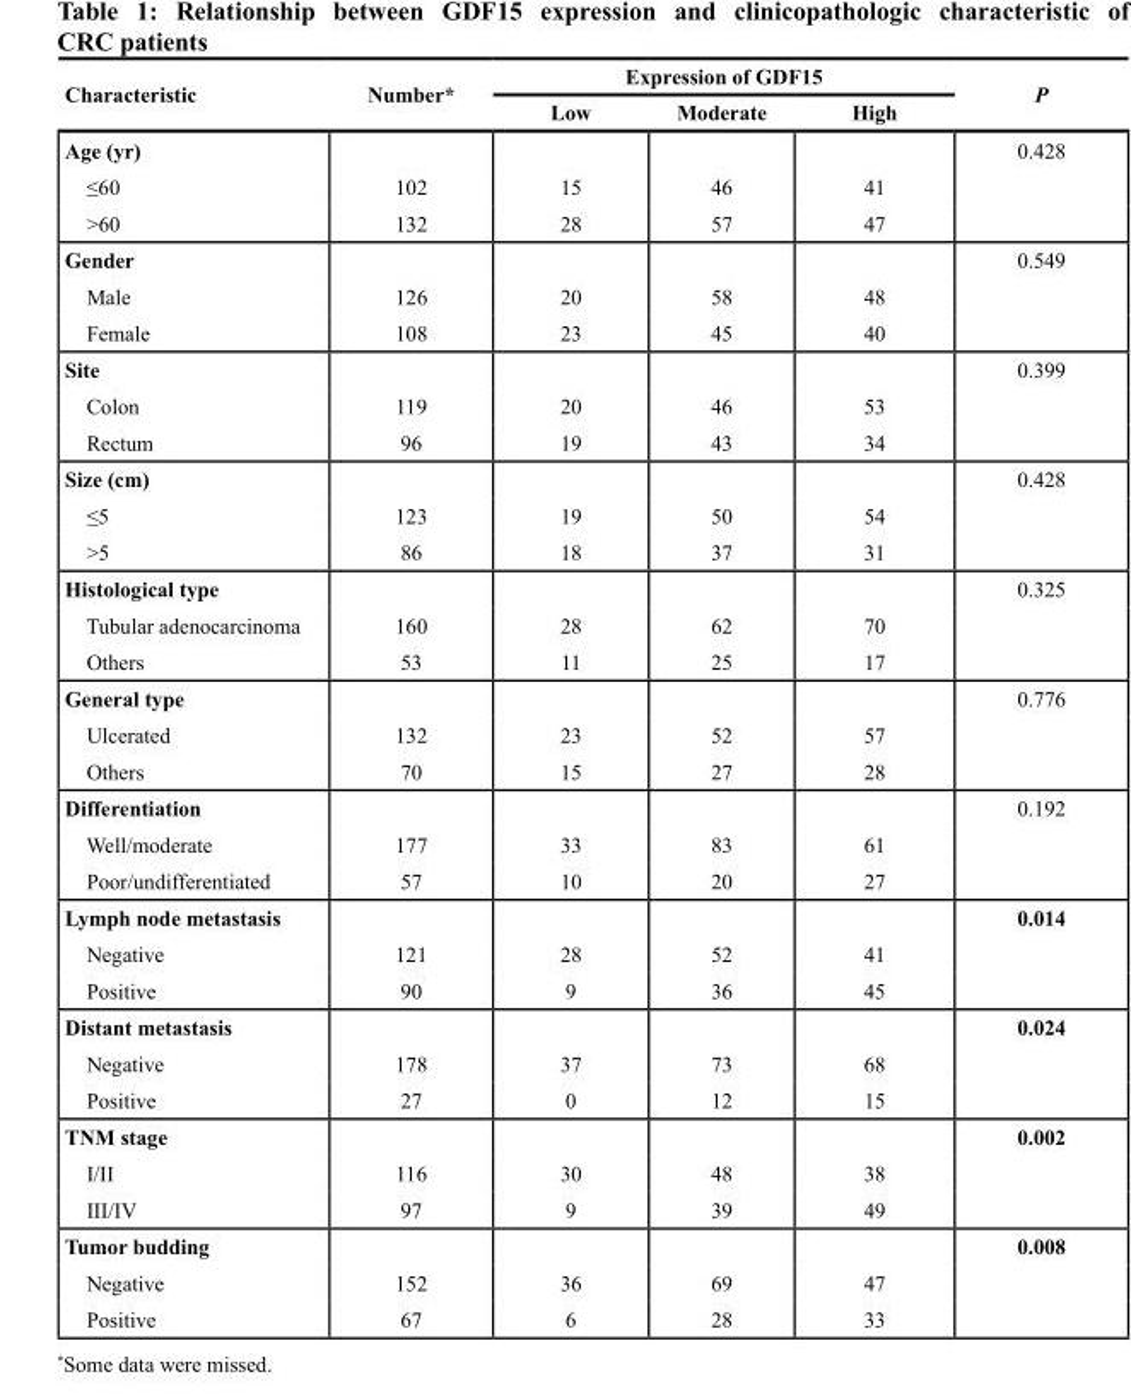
<table><thead><tr><td rowspan="2">Characteristic</td><td rowspan="2">Number*</td><td colspan="3">Expression of GDF15</td><td rowspan="2">P</td></tr><tr><td>Low</td><td>Moderate</td><td>High</td></tr></thead><tbody><tr><td>Age (yr)</td><td></td><td></td><td></td><td></td><td>0.428</td></tr><tr><td>≤60</td><td>102</td><td>15</td><td>46</td><td>41</td><td></td></tr><tr><td>&gt;60</td><td>132</td><td>28</td><td>57</td><td>47</td><td></td></tr><tr><td>Gender</td><td></td><td></td><td></td><td></td><td>0.549</td></tr><tr><td>Male</td><td>126</td><td>20</td><td>58</td><td>48</td><td></td></tr><tr><td>Female</td><td>108</td><td>23</td><td>45</td><td>40</td><td></td></tr><tr><td>Site</td><td></td><td></td><td></td><td></td><td>0.399</td></tr><tr><td>Colon</td><td>119</td><td>20</td><td>46</td><td>53</td><td></td></tr><tr><td>Rectum</td><td>96</td><td>19</td><td>43</td><td>34</td><td></td></tr><tr><td>Size (cm)</td><td></td><td></td><td></td><td></td><td>0.428</td></tr><tr><td>≤5</td><td>123</td><td>19</td><td>50</td><td>54</td><td></td></tr><tr><td>&gt;5</td><td>86</td><td>18</td><td>37</td><td>31</td><td></td></tr><tr><td>Histological type</td><td></td><td></td><td></td><td></td><td>0.325</td></tr><tr><td>Tubular adenocarcinoma</td><td>160</td><td>28</td><td>62</td><td>70</td><td></td></tr><tr><td>Others</td><td>53</td><td>11</td><td>25</td><td>17</td><td></td></tr><tr><td>General type</td><td></td><td></td><td></td><td></td><td>0.776</td></tr><tr><td>Ulcerated</td><td>132</td><td>23</td><td>52</td><td>57</td><td></td></tr><tr><td>Others</td><td>70</td><td>15</td><td>27</td><td>28</td><td></td></tr><tr><td>Differentiation</td><td></td><td></td><td></td><td></td><td>0.192</td></tr><tr><td>Well/moderate</td><td>177</td><td>33</td><td>83</td><td>61</td><td></td></tr><tr><td>Poor/undifferentiated</td><td>57</td><td>10</td><td>20</td><td>27</td><td></td></tr><tr><td>Lymph node metastasis</td><td></td><td></td><td></td><td></td><td>0.014</td></tr><tr><td>Negative</td><td>121</td><td>28</td><td>52</td><td>41</td><td></td></tr><tr><td>Positive</td><td>90</td><td>9</td><td>36</td><td>45</td><td></td></tr><tr><td>Distant metastasis</td><td></td><td></td><td></td><td></td><td>0.024</td></tr><tr><td>Negative</td><td>178</td><td>37</td><td>73</td><td>68</td><td></td></tr><tr><td>Positive</td><td>27</td><td>0</td><td>12</td><td>15</td><td></td></tr><tr><td>TNM stage</td><td></td><td></td><td></td><td></td><td>0.002</td></tr><tr><td>I/II</td><td>116</td><td>30</td><td>48</td><td>38</td><td></td></tr><tr><td>III/IV</td><td>97</td><td>9</td><td>39</td><td>49</td><td></td></tr><tr><td>Tumor budding</td><td></td><td></td><td></td><td></td><td>0.008</td></tr><tr><td>Negative</td><td>152</td><td>36</td><td>69</td><td>47</td><td></td></tr><tr><td>Positive</td><td>67</td><td>6</td><td>28</td><td>33</td><td></td></tr></tbody></table>